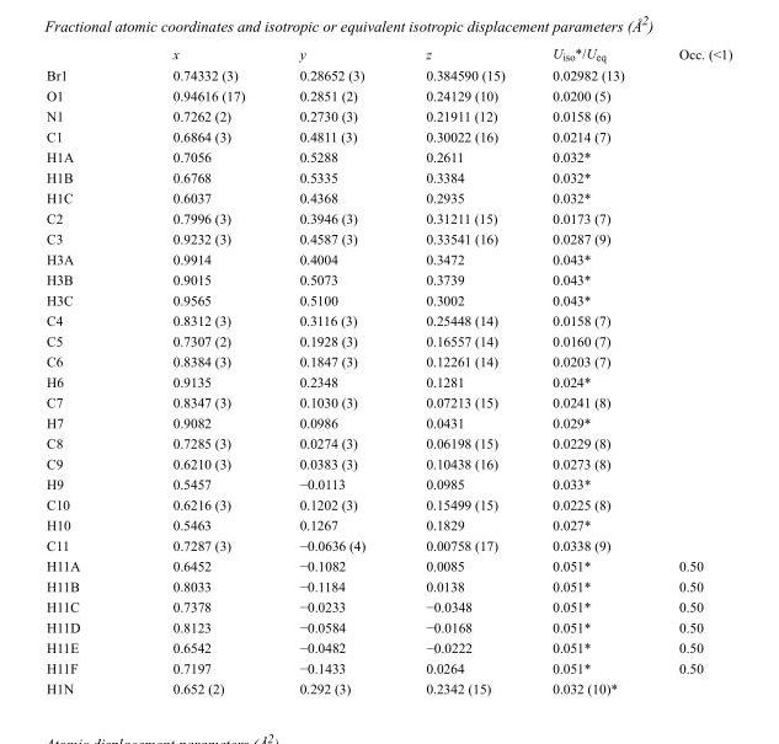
<table><thead><tr><td></td><td>x</td><td>y</td><td>z</td><td>U<sub>iso</sub>*/U<sub>eq</sub></td><td>Occ. (&lt;1)</td></tr></thead><tbody><tr><td>Br1</td><td>0.74332 (3)</td><td>0.28652 (3)</td><td>0.384590 (15)</td><td>0.02982 (13)</td><td></td></tr><tr><td>O1</td><td>0.94616 (17)</td><td>0.2851 (2)</td><td>0.24129 (10)</td><td>0.0200 (5)</td><td></td></tr><tr><td>N1</td><td>0.7262 (2)</td><td>0.2730 (3)</td><td>0.21911 (12)</td><td>0.0158 (6)</td><td></td></tr><tr><td>C1</td><td>0.6864 (3)</td><td>0.4811 (3)</td><td>0.30022 (16)</td><td>0.0214 (7)</td><td></td></tr><tr><td>H1A</td><td>0.7056</td><td>0.5288</td><td>0.2611</td><td>0.032*</td><td></td></tr><tr><td>H1B</td><td>0.6768</td><td>0.5335</td><td>0.3384</td><td>0.032*</td><td></td></tr><tr><td>H1C</td><td>0.6037</td><td>0.4368</td><td>0.2935</td><td>0.032*</td><td></td></tr><tr><td>C2</td><td>0.7996 (3)</td><td>0.3946 (3)</td><td>0.31211 (15)</td><td>0.0173 (7)</td><td></td></tr><tr><td>C3</td><td>0.9232 (3)</td><td>0.4587 (3)</td><td>0.33541 (16)</td><td>0.0287 (9)</td><td></td></tr><tr><td>H3A</td><td>0.9914</td><td>0.4004</td><td>0.3472</td><td>0.043*</td><td></td></tr><tr><td>H3B</td><td>0.9015</td><td>0.5073</td><td>0.3739</td><td>0.043*</td><td></td></tr><tr><td>H3C</td><td>0.9565</td><td>0.5100</td><td>0.3002</td><td>0.043*</td><td></td></tr><tr><td>C4</td><td>0.8312 (3)</td><td>0.3116 (3)</td><td>0.25448 (14)</td><td>0.0158 (7)</td><td></td></tr><tr><td>C5</td><td>0.7307 (2)</td><td>0.1928 (3)</td><td>0.16557 (14)</td><td>0.0160 (7)</td><td></td></tr><tr><td>C6</td><td>0.8384 (3)</td><td>0.1847 (3)</td><td>0.12261 (14)</td><td>0.0203 (7)</td><td></td></tr><tr><td>H6</td><td>0.9135</td><td>0.2348</td><td>0.1281</td><td>0.024*</td><td></td></tr><tr><td>C7</td><td>0.8347 (3)</td><td>0.1030 (3)</td><td>0.07213 (15)</td><td>0.0241 (8)</td><td></td></tr><tr><td>H7</td><td>0.9082</td><td>0.0986</td><td>0.0431</td><td>0.029*</td><td></td></tr><tr><td>C8</td><td>0.7285 (3)</td><td>0.0274 (3)</td><td>0.06198 (15)</td><td>0.0229 (8)</td><td></td></tr><tr><td>C9</td><td>0.6210 (3)</td><td>0.0383 (3)</td><td>0.10438 (16)</td><td>0.0273 (8)</td><td></td></tr><tr><td>H9</td><td>0.5457</td><td>−0.0113</td><td>0.0985</td><td>0.033*</td><td></td></tr><tr><td>C10</td><td>0.6216 (3)</td><td>0.1202 (3)</td><td>0.15499 (15)</td><td>0.0225 (8)</td><td></td></tr><tr><td>H10</td><td>0.5463</td><td>0.1267</td><td>0.1829</td><td>0.027*</td><td></td></tr><tr><td>C11</td><td>0.7287 (3)</td><td>−0.0636 (4)</td><td>0.00758 (17)</td><td>0.0338 (9)</td><td></td></tr><tr><td>H11A</td><td>0.6452</td><td>−0.1082</td><td>0.0085</td><td>0.051*</td><td>0.50</td></tr><tr><td>H11B</td><td>0.8033</td><td>−0.1184</td><td>0.0138</td><td>0.051*</td><td>0.50</td></tr><tr><td>H11C</td><td>0.7378</td><td>−0.0233</td><td>−0.0348</td><td>0.051*</td><td>0.50</td></tr><tr><td>H11D</td><td>0.8123</td><td>−0.0584</td><td>−0.0168</td><td>0.051*</td><td>0.50</td></tr><tr><td>H11E</td><td>0.6542</td><td>−0.0482</td><td>−0.0222</td><td>0.051*</td><td>0.50</td></tr><tr><td>H11F</td><td>0.7197</td><td>−0.1433</td><td>0.0264</td><td>0.051*</td><td>0.50</td></tr><tr><td>H1N</td><td>0.652 (2)</td><td>0.292 (3)</td><td>0.2342 (15)</td><td>0.032 (10)*</td><td></td></tr></tbody></table>